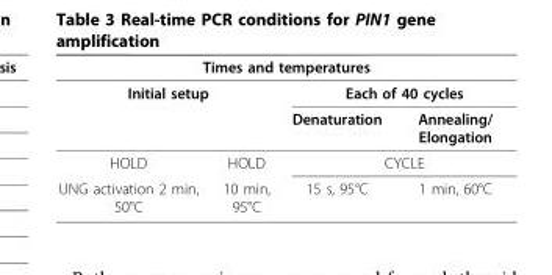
<table><thead><tr><td colspan="4">Times and temperatures</td></tr><tr><td colspan="2">Initial setup</td><td colspan="2">Each of 40 cycles</td></tr><tr><td></td><td></td><td>Denaturation</td><td>Annealing/ Elongation</td></tr></thead><tbody><tr><td>HOLD</td><td>HOLD</td><td colspan="2">CYCLE</td></tr><tr><td>UNG activation 2 min, 50°C</td><td>10 min, 95°C</td><td>15 s, 95°C</td><td>1 min, 60°C</td></tr></tbody></table>